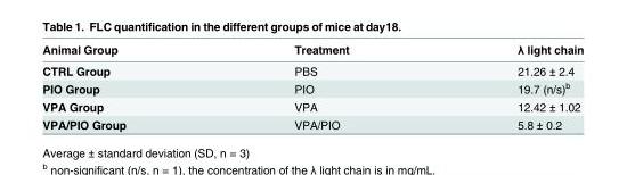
<table><thead><tr><td>Animal Group</td><td>Treatment</td><td>λ light chain</td></tr></thead><tbody><tr><td>CTRL Group</td><td>PBS</td><td>21.26 ± 2.4</td></tr><tr><td>PIO Group</td><td>PIO</td><td>19.7 (n/s)<sup>b</sup></td></tr><tr><td>VPA Group</td><td>VPA</td><td>12.42 ± 1.02</td></tr><tr><td>VPA/PIO Group</td><td>VPA/PIO</td><td>5.8 ± 0.2</td></tr></tbody></table>